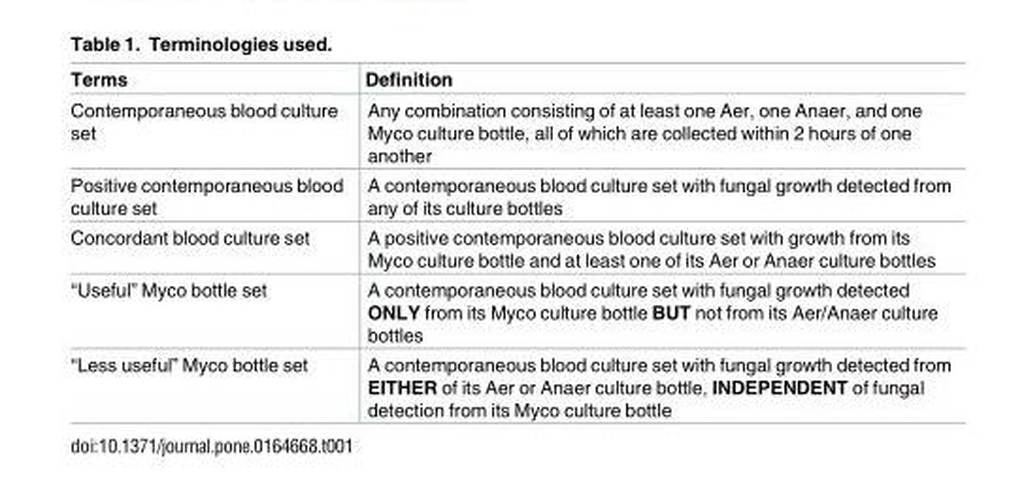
<table><thead><tr><td>Terms</td><td>Definition</td></tr></thead><tbody><tr><td>Contemporaneous blood culture set</td><td>Any combination consisting of at least one Aer, one Anaer, and one Myco culture bottle, all of which are collected within 2 hours of one another</td></tr><tr><td>Positive contemporaneous blood culture set</td><td>A contemporaneous blood culture set with fungal growth detected from any of its culture bottles</td></tr><tr><td>Concordant blood culture set</td><td>A positive contemporaneous blood culture set with growth from its Myco culture bottle and at least one of its Aer or Anaer culture bottles</td></tr><tr><td>“Useful” Myco bottle set</td><td>A contemporaneous blood culture set with fungal growth detected ONLY from its Myco culture bottle BUT not from its Aer/Anaer culture bottles</td></tr><tr><td>“Less useful” Myco bottle set</td><td>A contemporaneous blood culture set with fungal growth detected from EITHER of its Aer or Anaer culture bottle, INDEPENDENT of fungal detection from its Myco culture bottle</td></tr></tbody></table>